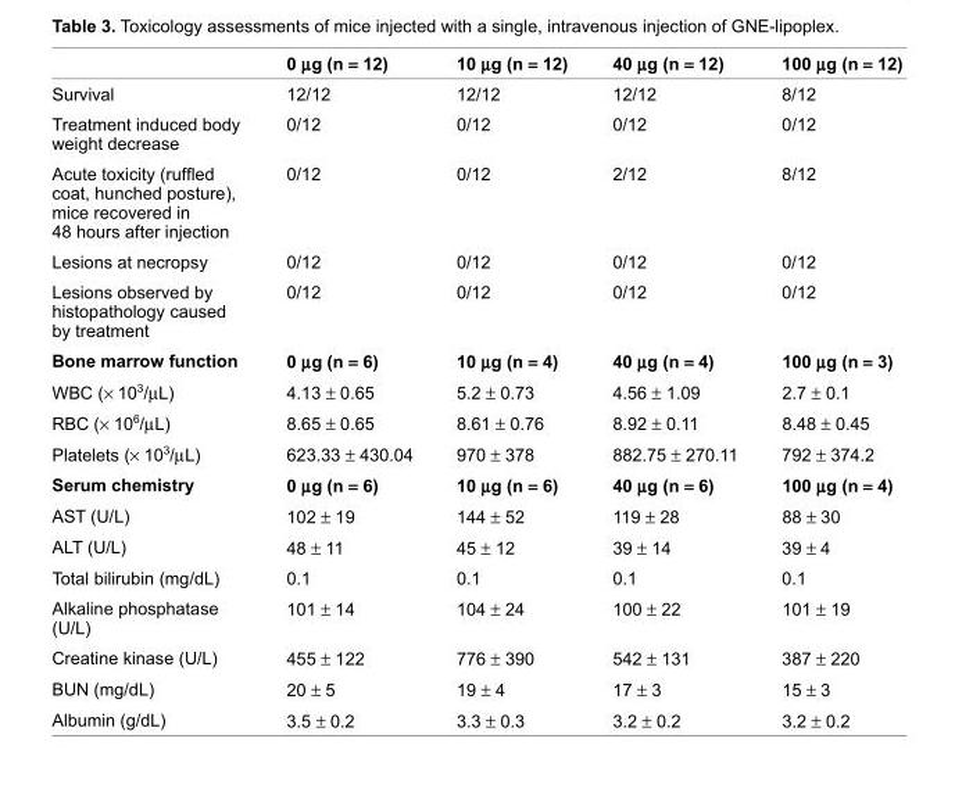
<table><thead><tr><td></td><td>0 μg (n = 12)</td><td>10 μg (n = 12)</td><td>40 μg (n = 12)</td><td>100 μg (n = 12)</td></tr></thead><tbody><tr><td>Survival</td><td>12/12</td><td>12/12</td><td>12/12</td><td>8/12</td></tr><tr><td>Treatment induced body weight decrease</td><td>0/12</td><td>0/12</td><td>0/12</td><td>0/12</td></tr><tr><td>Acute toxicity (ruffl ed coat, hunched posture), mice recovered in 48 hours after injection</td><td>0/12</td><td>0/12</td><td>2/12</td><td>8/12</td></tr><tr><td>Lesions at necropsy</td><td>0/12</td><td>0/12</td><td>0/12</td><td>0/12</td></tr><tr><td>Lesions observed by histopathology caused by treatment</td><td>0/12</td><td>0/12</td><td>0/12</td><td>0/12</td></tr><tr><td>Bone marrow function</td><td>0 μg (n = 6)</td><td>10 μg (n = 4)</td><td>40 μg (n = 4)</td><td>100 μg (n = 3)</td></tr><tr><td>WBC (× 10<sup>3</sup>/μL)</td><td>4.13 ± 0.65</td><td>5.2 ± 0.73</td><td>4.56 ± 1.09</td><td>2.7 ± 0.1</td></tr><tr><td>RBC (× 10<sup>6</sup>/μL)</td><td>8.65 ± 0.65</td><td>8.61 ± 0.76</td><td>8.92 ± 0.11</td><td>8.48 ± 0.45</td></tr><tr><td>Platelets (× 10<sup>3</sup>/μL)</td><td>623.33 ± 430.04</td><td>970 ± 378</td><td>882.75 ± 270.11</td><td>792 ± 374.2</td></tr><tr><td>Serum chemistry</td><td>0 μg (n = 6)</td><td>10 μg (n = 6)</td><td>40 μg (n = 6)</td><td>100 μg (n = 4)</td></tr><tr><td>AST (U/L)</td><td>102 ± 19</td><td>144 ± 52</td><td>119 ± 28</td><td>88 ± 30</td></tr><tr><td>ALT (U/L)</td><td>48 ± 11</td><td>45 ± 12</td><td>39 ± 14</td><td>39 ± 4</td></tr><tr><td>Total bilirubin (mg/dL)</td><td>0.1</td><td>0.1</td><td>0.1</td><td>0.1</td></tr><tr><td>Alkaline phosphatase (U/L)</td><td>101 ± 14</td><td>104 ± 24</td><td>100 ± 22</td><td>101 ± 19</td></tr><tr><td>Creatine kinase (U/L)</td><td>455 ± 122</td><td>776 ± 390</td><td>542 ± 131</td><td>387 ± 220</td></tr><tr><td>BUN (mg/dL)</td><td>20 ± 5</td><td>19 ± 4</td><td>17 ± 3</td><td>15 ± 3</td></tr><tr><td>Albumin (g/dL)</td><td>3.5 ± 0.2</td><td>3.3 ± 0.3</td><td>3.2 ± 0.2</td><td>3.2 ± 0.2</td></tr></tbody></table>